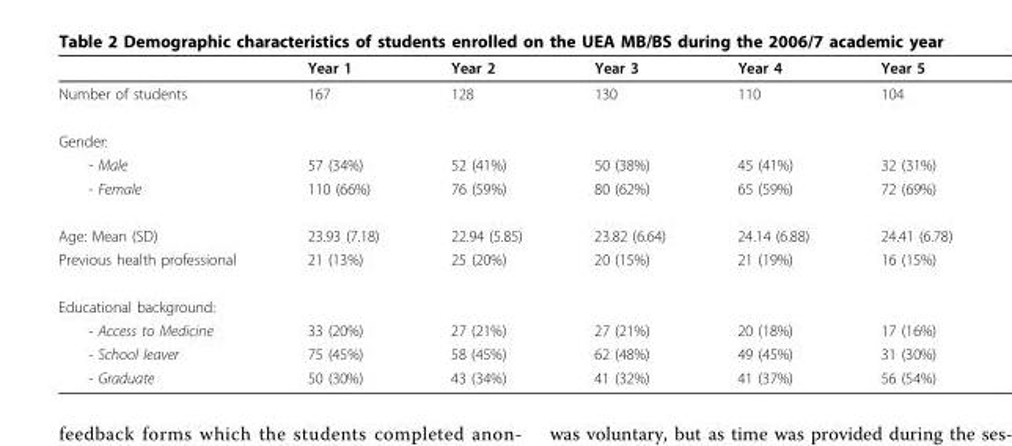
<table><thead><tr><td></td><td>Year 1</td><td>Year 2</td><td>Year 3</td><td>Year 4</td><td>Year 5</td></tr></thead><tbody><tr><td>Number of students</td><td>167</td><td>128</td><td>130</td><td>110</td><td>104</td></tr><tr><td colspan="6">Gender:</td></tr><tr><td>- Male</td><td>57 (34%)</td><td>52 (41%)</td><td>50 (38%)</td><td>45 (41%)</td><td>32 (31%)</td></tr><tr><td>- Female</td><td>110 (66%)</td><td>76 (59%)</td><td>80 (62%)</td><td>65 (59%)</td><td>72 (69%)</td></tr><tr><td>Age: Mean (SD)</td><td>23.93 (7.18)</td><td>22.94 (5.85)</td><td>23.82 (6.64)</td><td>24.14 (6.88)</td><td>24.41 (6.78)</td></tr><tr><td>Previous health professional</td><td>21 (13%)</td><td>25 (20%)</td><td>20 (15%)</td><td>21 (19%)</td><td>16 (15%)</td></tr><tr><td colspan="6">Educational background:</td></tr><tr><td>- Access to Medicine</td><td>33 (20%)</td><td>27 (21%)</td><td>27 (21%)</td><td>20 (18%)</td><td>17 (16%)</td></tr><tr><td>- School leaver</td><td>75 (45%)</td><td>58 (45%)</td><td>62 (48%)</td><td>49 (45%)</td><td>31 (30%)</td></tr><tr><td>- Graduate</td><td>50 (30%)</td><td>43 (34%)</td><td>41 (32%)</td><td>41 (37%)</td><td>56 (54%)</td></tr></tbody></table>